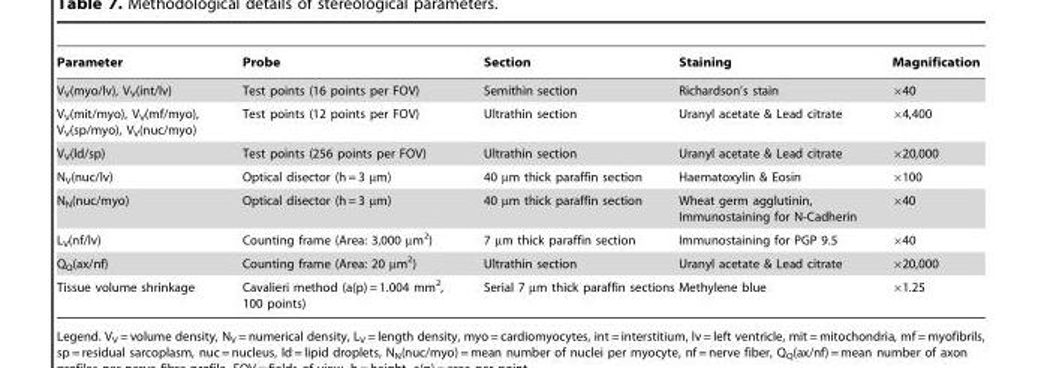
<table><thead><tr><td>Parameter</td><td>Probe</td><td>Section</td><td>Staining</td><td>Magnification</td></tr></thead><tbody><tr><td>V<sub>V</sub>(myo/lv), V<sub>V</sub>(int/lv)</td><td>Test points (16 points per FOV)</td><td>Semithin section</td><td>Richardson’s stain</td><td>×40</td></tr><tr><td>V<sub>V</sub>(mit/myo), V<sub>V</sub>(mf/myo), V<sub>V</sub>(sp/myo), V<sub>V</sub>(nuc/myo)</td><td>Test points (12 points per FOV)</td><td>Ultrathin section</td><td>Uranyl acetate &amp; Lead citrate</td><td>×4,400</td></tr><tr><td>V<sub>V</sub>(ld/sp)</td><td>Test points (256 points per FOV)</td><td>Ultrathin section</td><td>Uranyl acetate &amp; Lead citrate</td><td>×20,000</td></tr><tr><td>N<sub>V</sub>(nuc/lv)</td><td>Optical disector (h = 3 µm)</td><td>40 µm thick paraffin section</td><td>Haematoxylin &amp; Eosin</td><td>×100</td></tr><tr><td>N<sub>N</sub>(nuc/myo)</td><td>Optical disector (h = 3 µm)</td><td>40 µm thick paraffin section</td><td>Wheat germ agglutinin, Immunostaining for N-Cadherin</td><td>×40</td></tr><tr><td>L<sub>V</sub>(nf/lv)</td><td>Counting frame (Area: 3,000 µm<sup>2</sup>)</td><td>7 µm thick paraffin section</td><td>Immunostaining for PGP 9.5</td><td>×40</td></tr><tr><td>Q<sub>Q</sub>(ax/nf)</td><td>Counting frame (Area: 20 µm<sup>2</sup>)</td><td>Ultrathin section</td><td>Uranyl acetate &amp; Lead citrate</td><td>×20,000</td></tr><tr><td>Tissue volume shrinkage</td><td>Cavalieri method (a(p) = 1.004 mm<sup>2</sup>, 100 points)</td><td>Serial 7 µm thick paraffin sections</td><td>Methylene blue</td><td>×1.25</td></tr></tbody></table>